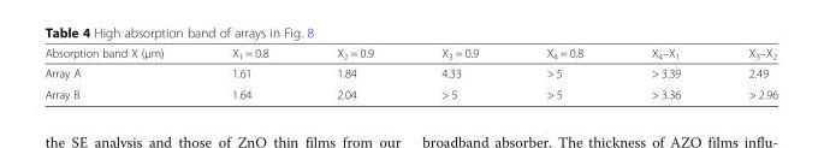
<table><thead><tr><td>Absorption band X (μm)</td><td>X<sub>1</sub> = 0.8</td><td>X<sub>2</sub> = 0.9</td><td>X<sub>3</sub> = 0.9</td><td>X<sub>4</sub> = 0.8</td><td>X<sub>4</sub>–X<sub>1</sub></td><td>X<sub>3</sub>–X<sub>2</sub></td></tr></thead><tbody><tr><td>Array A</td><td>1.61</td><td>1.84</td><td>4.33</td><td>&gt; 5</td><td>&gt; 3.39</td><td>2.49</td></tr><tr><td>Array B</td><td>1.64</td><td>2.04</td><td>&gt; 5</td><td>&gt; 5</td><td>&gt; 3.36</td><td>&gt; 2.96</td></tr></tbody></table>